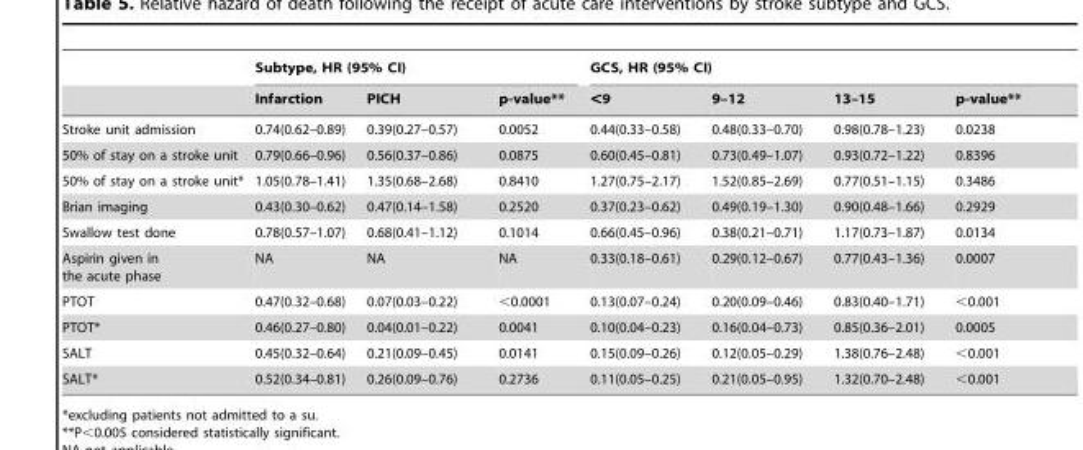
<table><thead><tr><td rowspan="2"></td><td colspan="3">Subtype, HR (95% CI)</td><td colspan="4">GCS, HR (95% CI)</td></tr><tr><td>Infarction</td><td>PICH</td><td>p-value**</td><td>&lt;9</td><td>9–12</td><td>13–15</td><td>p-value**</td></tr></thead><tbody><tr><td>Stroke unit admission</td><td>0.74(0.62–0.89)</td><td>0.39(0.27–0.57)</td><td>0.0052</td><td>0.44(0.33–0.58)</td><td>0.48(0.33–0.70)</td><td>0.98(0.78–1.23)</td><td>0.0238</td></tr><tr><td>50% of stay on a stroke unit</td><td>0.79(0.66–0.96)</td><td>0.56(0.37–0.86)</td><td>0.0875</td><td>0.60(0.45–0.81)</td><td>0.73(0.49–1.07)</td><td>0.93(0.72–1.22)</td><td>0.8396</td></tr><tr><td>50% of stay on a stroke unit*</td><td>1.05(0.78–1.41)</td><td>1.35(0.68–2.68)</td><td>0.8410</td><td>1.27(0.75–2.17)</td><td>1.52(0.85–2.69)</td><td>0.77(0.51–1.15)</td><td>0.3486</td></tr><tr><td>Brian imaging</td><td>0.43(0.30–0.62)</td><td>0.47(0.14–1.58)</td><td>0.2520</td><td>0.37(0.23–0.62)</td><td>0.49(0.19–1.30)</td><td>0.90(0.48–1.66)</td><td>0.2929</td></tr><tr><td>Swallow test done</td><td>0.78(0.57–1.07)</td><td>0.68(0.41–1.12)</td><td>0.1014</td><td>0.66(0.45–0.96)</td><td>0.38(0.21–0.71)</td><td>1.17(0.73–1.87)</td><td>0.0134</td></tr><tr><td>Aspirin given in the acute phase</td><td>NA</td><td>NA</td><td>NA</td><td>0.33(0.18–0.61)</td><td>0.29(0.12–0.67)</td><td>0.77(0.43–1.36)</td><td>0.0007</td></tr><tr><td>PTOT</td><td>0.47(0.32–0.68)</td><td>0.07(0.03–0.22)</td><td>&lt;0.0001</td><td>0.13(0.07–0.24)</td><td>0.20(0.09–0.46)</td><td>0.83(0.40–1.71)</td><td>&lt;0.001</td></tr><tr><td>PTOT*</td><td>0.46(0.27–0.80)</td><td>0.04(0.01–0.22)</td><td>0.0041</td><td>0.10(0.04–0.23)</td><td>0.16(0.04–0.73)</td><td>0.85(0.36–2.01)</td><td>0.0005</td></tr><tr><td>SALT</td><td>0.45(0.32–0.64)</td><td>0.21(0.09–0.45)</td><td>0.0141</td><td>0.15(0.09–0.26)</td><td>0.12(0.05–0.29)</td><td>1.38(0.76–2.48)</td><td>&lt;0.001</td></tr><tr><td>SALT*</td><td>0.52(0.34–0.81)</td><td>0.26(0.09–0.76)</td><td>0.2736</td><td>0.11(0.05–0.25)</td><td>0.21(0.05–0.95)</td><td>1.32(0.70–2.48)</td><td>&lt;0.001</td></tr></tbody></table>